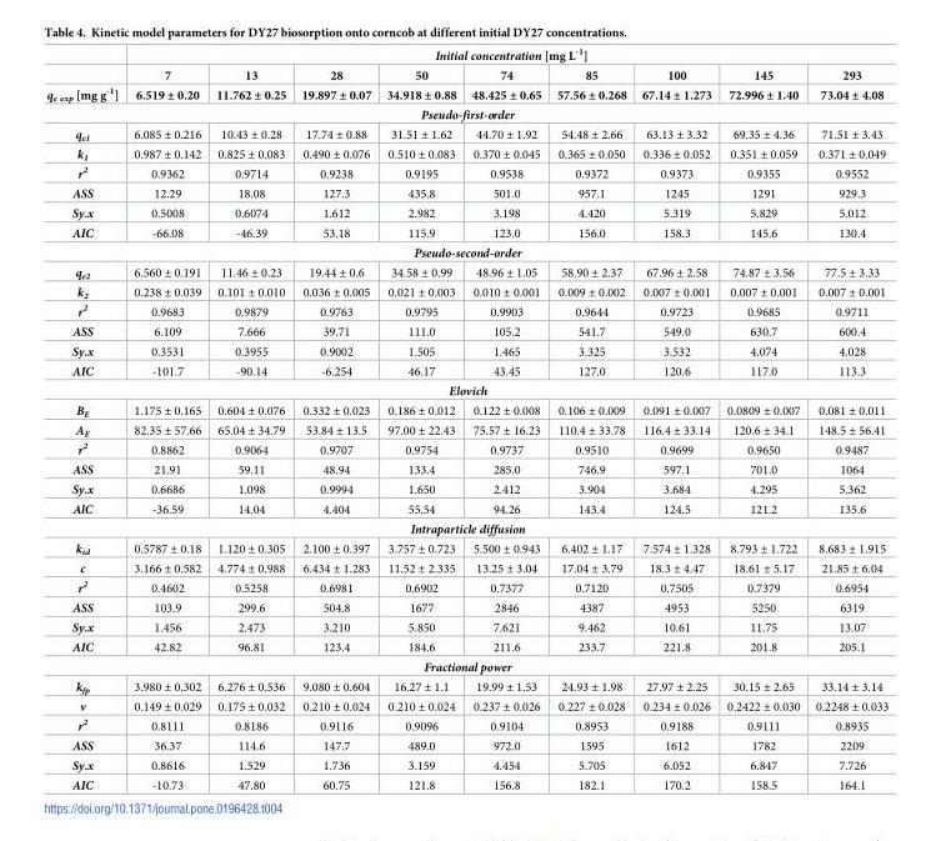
<table><thead><tr><td rowspan="2"></td><td colspan="9">Initial concentration [mg L<sup>-1</sup>]</td></tr><tr><td>7</td><td>13</td><td>28</td><td>50</td><td>74</td><td>85</td><td>100</td><td>145</td><td>293</td></tr></thead><tbody><tr><td>q<sub>e exp</sub> [mg g<sup>-1</sup>]</td><td>6.519 ± 0.20</td><td>11.762 ± 0.25</td><td>19.897 ± 0.07</td><td>34.918 ± 0.88</td><td>48.425 ± 0.65</td><td>57.56 ± 0.268</td><td>67.14 ± 1.273</td><td>72.996 ± 1.40</td><td>73.04 ± 4.08</td></tr><tr><td colspan="10">Pseudo-first-order</td></tr><tr><td>q<sub>e1</sub></td><td>6.085 ± 0.216</td><td>10.43 ± 0.28</td><td>17.74 ± 0.88</td><td>31.51 ± 1.62</td><td>44.70 ± 1.92</td><td>54.48 ± 2.66</td><td>63.13 ± 3.32</td><td>69.35 ± 4.36</td><td>71.51 ± 3.43</td></tr><tr><td>k<sub>1</sub></td><td>0.987 ± 0.142</td><td>0.825 ± 0.083</td><td>0.490 ± 0.076</td><td>0.510 ± 0.083</td><td>0.370 ± 0.045</td><td>0.365 ± 0.050</td><td>0.336 ± 0.052</td><td>0.351 ± 0.059</td><td>0.371 ± 0.049</td></tr><tr><td>r<sup>2</sup></td><td>0.9362</td><td>0.9714</td><td>0.9238</td><td>0.9195</td><td>0.9538</td><td>0.9372</td><td>0.9373</td><td>0.9355</td><td>0.9552</td></tr><tr><td>ASS</td><td>12.29</td><td>18.08</td><td>127.3</td><td>435.8</td><td>501.0</td><td>957.1</td><td>1245</td><td>1291</td><td>929.3</td></tr><tr><td>Sy.x</td><td>0.5008</td><td>0.6074</td><td>1.612</td><td>2.982</td><td>3.198</td><td>4.420</td><td>5.319</td><td>5.829</td><td>5.012</td></tr><tr><td>AIC</td><td>-66.08</td><td>-46.39</td><td>53.18</td><td>115.9</td><td>123.0</td><td>156.0</td><td>158.3</td><td>145.6</td><td>130.4</td></tr><tr><td colspan="10">Pseudo-second-order</td></tr><tr><td>q<sub>e2</sub></td><td>6.560 ± 0.191</td><td>11.46 ± 0.23</td><td>19.44 ± 0.6</td><td>34.58 ± 0.99</td><td>48.96 ± 1.05</td><td>58.90 ± 2.37</td><td>67.96 ± 2.58</td><td>74.87 ± 3.56</td><td>77.5 ± 3.33</td></tr><tr><td>k<sub>2</sub></td><td>0.238 ± 0.039</td><td>0.101 ± 0.010</td><td>0.036 ± 0.005</td><td>0.021 ± 0.003</td><td>0.010 ± 0.001</td><td>0.009 ± 0.002</td><td>0.007 ± 0.001</td><td>0.007 ± 0.001</td><td>0.007 ± 0.001</td></tr><tr><td>r<sup>2</sup></td><td>0.9683</td><td>0.9879</td><td>0.9763</td><td>0.9795</td><td>0.9903</td><td>0.9644</td><td>0.9723</td><td>0.9685</td><td>0.9711</td></tr><tr><td>ASS</td><td>6.109</td><td>7.666</td><td>39.71</td><td>111.0</td><td>105.2</td><td>541.7</td><td>549.0</td><td>630.7</td><td>600.4</td></tr><tr><td>Sy.x</td><td>0.3531</td><td>0.3955</td><td>0.9002</td><td>1.505</td><td>1.465</td><td>3.325</td><td>3.532</td><td>4.074</td><td>4.028</td></tr><tr><td>AIC</td><td>-101.7</td><td>-90.14</td><td>-6.254</td><td>46.17</td><td>43.45</td><td>127.0</td><td>120.6</td><td>117.0</td><td>113.3</td></tr><tr><td colspan="10">Elovich</td></tr><tr><td>B<sub>E</sub></td><td>1.175 ± 0.165</td><td>0.604 ± 0.076</td><td>0.332 ± 0.023</td><td>0.186 ± 0.012</td><td>0.122 ± 0.008</td><td>0.106 ± 0.009</td><td>0.091 ± 0.007</td><td>0.0809 ± 0.007</td><td>0.081 ± 0.011</td></tr><tr><td>A<sub>E</sub></td><td>82.35 ± 57.66</td><td>65.04 ± 34.79</td><td>53.84 ± 13.5</td><td>97.00 ± 22.43</td><td>75.57 ± 16.23</td><td>110.4 ± 33.78</td><td>116.4 ± 33.14</td><td>120.6 ± 34.1</td><td>148.5 ± 56.41</td></tr><tr><td>r<sup>2</sup></td><td>0.8862</td><td>0.9064</td><td>0.9707</td><td>0.9754</td><td>0.9737</td><td>0.9510</td><td>0.9699</td><td>0.9650</td><td>0.9487</td></tr><tr><td>ASS</td><td>21.91</td><td>59.11</td><td>48.94</td><td>133.4</td><td>285.0</td><td>746.9</td><td>597.1</td><td>701.0</td><td>1064</td></tr><tr><td>Sy.x</td><td>0.6686</td><td>1.098</td><td>0.9994</td><td>1.650</td><td>2.412</td><td>3.904</td><td>3.684</td><td>4.295</td><td>5.362</td></tr><tr><td>AlC</td><td>-36.59</td><td>14.04</td><td>4.404</td><td>55.54</td><td>94.26</td><td>143.4</td><td>124.5</td><td>121.2</td><td>135.6</td></tr><tr><td colspan="10">Intraparticle diffusion</td></tr><tr><td>k<sub>id</sub></td><td>0.5787 ± 0.18</td><td>1.120 ± 0.305</td><td>2.100 ± 0.397</td><td>3.757 ± 0.723</td><td>5.500 ± 0.943</td><td>6.402 ± 1.17</td><td>7.574 ± 1.328</td><td>8.793 ± 1.722</td><td>8.683 ± 1.915</td></tr><tr><td>c</td><td>3.166 ± 0.582</td><td>4.774 ± 0.988</td><td>6.434 ± 1.283</td><td>11.52 ± 2.335</td><td>13.25 ± 3.04</td><td>17.04 ± 3.79</td><td>18.3 ± 4.47</td><td>18.61 ± 5.17</td><td>21.85 ± 6.04</td></tr><tr><td>r<sup>2</sup></td><td>0.4602</td><td>0.5258</td><td>0.6981</td><td>0.6902</td><td>0.7377</td><td>0.7120</td><td>0.7505</td><td>0.7379</td><td>0.6954</td></tr><tr><td>ASS</td><td>103.9</td><td>299.6</td><td>504.8</td><td>1677</td><td>2846</td><td>4387</td><td>4953</td><td>5250</td><td>6319</td></tr><tr><td>Sy.x</td><td>1.456</td><td>2.473</td><td>3.210</td><td>5.850</td><td>7.621</td><td>9.462</td><td>10.61</td><td>11.75</td><td>13.07</td></tr><tr><td>AIC</td><td>42.82</td><td>96.81</td><td>123.4</td><td>184.6</td><td>211.6</td><td>233.7</td><td>221.8</td><td>201.8</td><td>205.1</td></tr><tr><td colspan="10">Fractional power</td></tr><tr><td>k<sub>fp</sub></td><td>3.980 ± 0.302</td><td>6.276 ± 0.536</td><td>9.080 ± 0.604</td><td>16.27 ± 1.1</td><td>19.99 ± 1.53</td><td>24.93 ± 1.98</td><td>27.97 ± 2.25</td><td>30.15 ± 2.65</td><td>33.14 ± 3.14</td></tr><tr><td>v</td><td>0.149 ± 0.029</td><td>0.175 ± 0.032</td><td>0.210 ± 0.024</td><td>0.210 ± 0.024</td><td>0.237 ± 0.026</td><td>0.227 ± 0.028</td><td>0.234 ± 0.026</td><td>0.2422 ± 0.030</td><td>0.2248 ± 0.033</td></tr><tr><td>r<sup>2</sup></td><td>0.8111</td><td>0.8186</td><td>0.9116</td><td>0.9096</td><td>0.9104</td><td>0.8953</td><td>0.9188</td><td>0.9111</td><td>0.8935</td></tr><tr><td>ASS</td><td>36.37</td><td>114.6</td><td>147.7</td><td>489.0</td><td>972.0</td><td>1595</td><td>1612</td><td>1782</td><td>2209</td></tr><tr><td>Sy.x</td><td>0.8616</td><td>1.529</td><td>1.736</td><td>3.159</td><td>4.454</td><td>5.705</td><td>6.052</td><td>6.847</td><td>7.726</td></tr><tr><td>AIC</td><td>-10.73</td><td>47.80</td><td>60.75</td><td>121.8</td><td>156.8</td><td>182.1</td><td>170.2</td><td>158.5</td><td>164.1</td></tr></tbody></table>